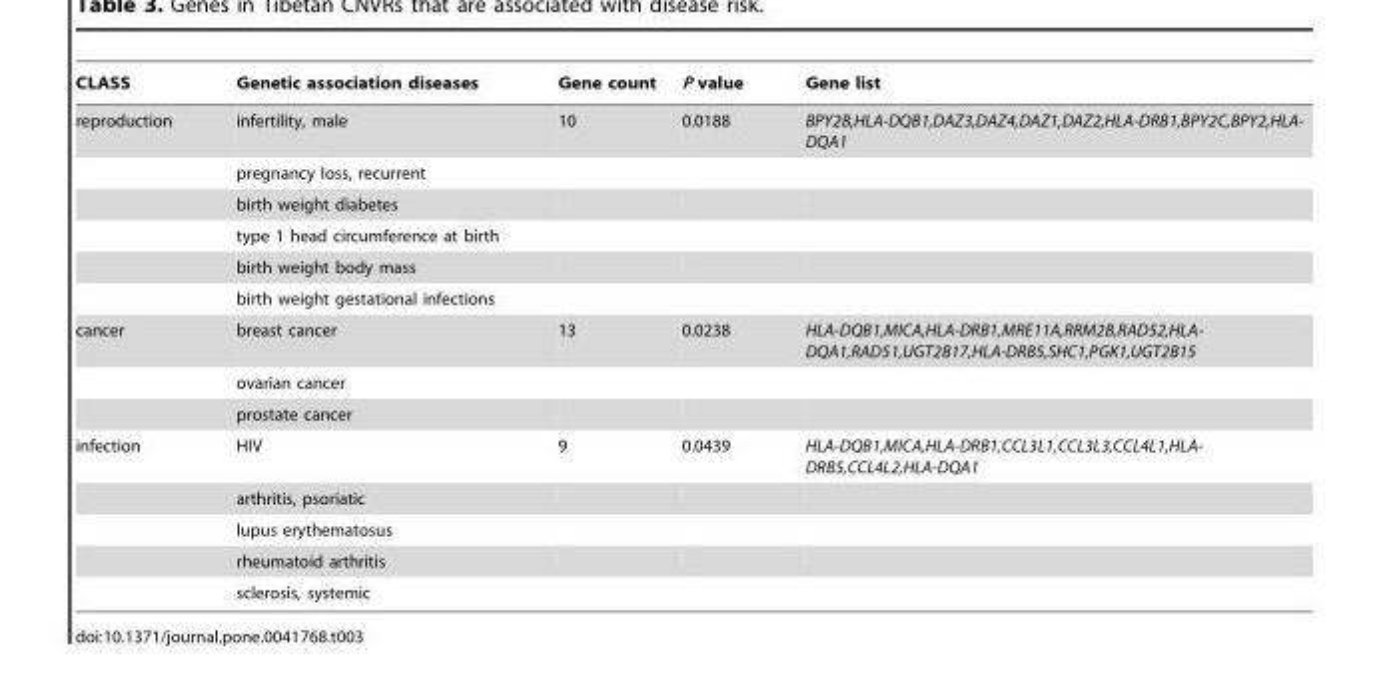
<table><thead><tr><td>CLASS</td><td>Genetic association diseases</td><td>Gene count</td><td>P value</td><td>Gene list</td></tr></thead><tbody><tr><td rowspan="6">reproduction</td><td>infertility, male</td><td>10</td><td>0.0188</td><td>BPY2B,HLA-DQB1,DAZ3,DAZ4,DAZ1,DAZ2,HLA-DRB1,BPY2C,BPY2,HLA- DQA1</td></tr><tr><td>pregnancy loss, recurrent</td><td></td><td></td><td></td></tr><tr><td>birth weight diabetes</td><td></td><td></td><td></td></tr><tr><td>type 1 head circumference at birth</td><td></td><td></td><td></td></tr><tr><td>birth weight body mass</td><td></td><td></td><td></td></tr><tr><td>birth weight gestational infections</td><td></td><td></td><td></td></tr><tr><td rowspan="3">cancer</td><td>breast cancer</td><td>13</td><td>0.0238</td><td>HLA-DQB1,MICA,HLA-DRB1,MRE11A,RRM2B,RAD52,HLA- DQA1,RAD51,UGT2B17,HLA-DRB5,SHC1,PGK1,UGT2B15</td></tr><tr><td>ovarian cancer</td><td></td><td></td><td></td></tr><tr><td>prostate cancer</td><td></td><td></td><td></td></tr><tr><td rowspan="5">infection</td><td>HIV</td><td>9</td><td>0.0439</td><td>HLA-DQB1,MICA,HLA-DRB1,CCL3L1,CCL3L3,CCL4L1,HLA- DRB5,CCL4L2,HLA-DQA1</td></tr><tr><td>arthritis, psoriatic</td><td></td><td></td><td></td></tr><tr><td>lupus erythematosus</td><td></td><td></td><td></td></tr><tr><td>rheumatoid arthritis</td><td></td><td></td><td></td></tr><tr><td>sclerosis, systemic</td><td></td><td></td><td></td></tr></tbody></table>